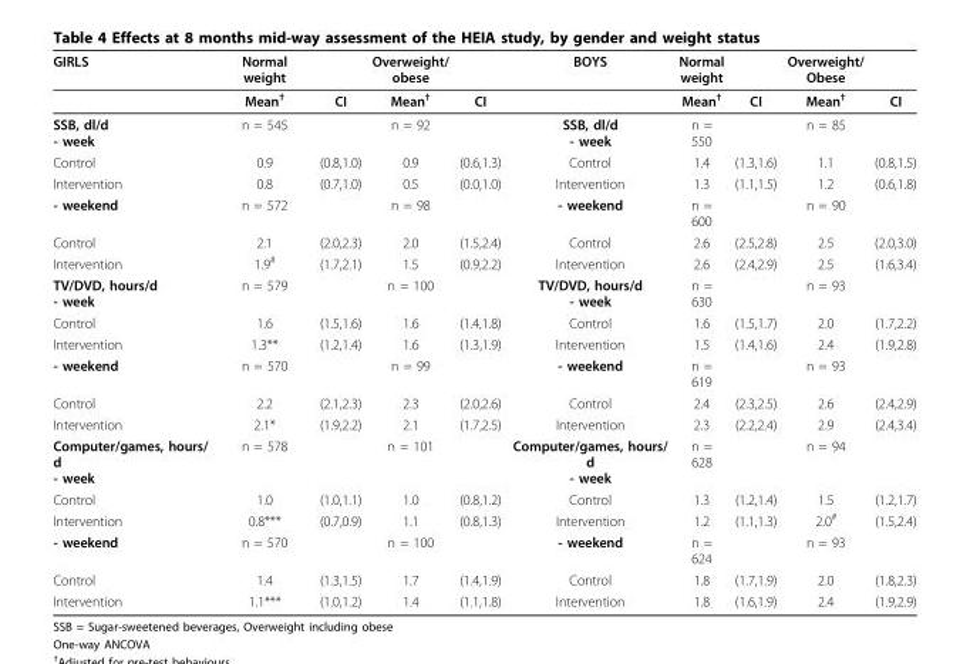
<table><thead><tr><td>GIRLS</td><td>Normal weight</td><td></td><td>Overweight/ obese</td><td></td><td>BOYS</td><td>Normal weight</td><td></td><td>Overweight/ Obese</td><td></td></tr></thead><tbody><tr><td></td><td>Mean<sup>†</sup></td><td>CI</td><td>Mean<sup>†</sup></td><td>CI</td><td></td><td>Mean<sup>†</sup></td><td>CI</td><td>Mean<sup>†</sup></td><td>CI</td></tr><tr><td>SSB, dl/d - week</td><td>n = 545</td><td></td><td>n = 92</td><td></td><td>SSB, dl/d - week</td><td>n = 550</td><td></td><td>n = 85</td><td></td></tr><tr><td>Control</td><td>0.9</td><td>(0.8,1.0)</td><td>0.9</td><td>(0.6,1.3)</td><td>Control</td><td>1.4</td><td>(1.3,1.6)</td><td>1.1</td><td>(0.8,1.5)</td></tr><tr><td>Intervention</td><td>0.8</td><td>(0.7,1.0)</td><td>0.5</td><td>(0.0,1.0)</td><td>Intervention</td><td>1.3</td><td>(1.1,1.5)</td><td>1.2</td><td>(0.6,1.8)</td></tr><tr><td>- weekend</td><td>n = 572</td><td></td><td>n = 98</td><td></td><td>- weekend</td><td>n = 600</td><td></td><td>n = 90</td><td></td></tr><tr><td>Control</td><td>2.1</td><td>(2.0,2.3)</td><td>2.0</td><td>(1.5,2.4)</td><td>Control</td><td>2.6</td><td>(2.5,2.8)</td><td>2.5</td><td>(2.0,3.0)</td></tr><tr><td>Intervention</td><td>1.9<sup>#</sup></td><td>(1.7,2.1)</td><td>1.5</td><td>(0.9,2.2)</td><td>Intervention</td><td>2.6</td><td>(2.4,2.9)</td><td>2.5</td><td>(1.6,3.4)</td></tr><tr><td>TV/DVD, hours/d - week</td><td>n = 579</td><td></td><td>n = 100</td><td></td><td>TV/DVD, hours/d - week</td><td>n = 630</td><td></td><td>n = 93</td><td></td></tr><tr><td>Control</td><td>1.6</td><td>(1.5,1.6)</td><td>1.6</td><td>(1.4,1.8)</td><td>Control</td><td>1.6</td><td>(1.5,1.7)</td><td>2.0</td><td>(1.7,2.2)</td></tr><tr><td>Intervention</td><td>1.3**</td><td>(1.2,1.4)</td><td>1.6</td><td>(1.3,1.9)</td><td>Intervention</td><td>1.5</td><td>(1.4,1.6)</td><td>2.4</td><td>(1.9,2.8)</td></tr><tr><td>- weekend</td><td>n = 570</td><td></td><td>n = 99</td><td></td><td>- weekend</td><td>n = 619</td><td></td><td>n = 93</td><td></td></tr><tr><td>Control</td><td>2.2</td><td>(2.1,2.3)</td><td>2.3</td><td>(2.0,2.6)</td><td>Control</td><td>2.4</td><td>(2.3,2.5)</td><td>2.6</td><td>(2.4,2.9)</td></tr><tr><td>Intervention</td><td>2.1*</td><td>(1.9,2.2)</td><td>2.1</td><td>(1.7,2.5)</td><td>Intervention</td><td>2.3</td><td>(2.2,2.4)</td><td>2.9</td><td>(2.4,3.4)</td></tr><tr><td>Computer/games, hours/ d - week</td><td>n = 578</td><td></td><td>n = 101</td><td></td><td>Computer/games, hours/ d - week</td><td>n = 628</td><td></td><td>n = 94</td><td></td></tr><tr><td>Control</td><td>1.0</td><td>(1.0,1.1)</td><td>1.0</td><td>(0.8,1.2)</td><td>Control</td><td>1.3</td><td>(1.2,1.4)</td><td>1.5</td><td>(1.2,1.7)</td></tr><tr><td>Intervention</td><td>0.8***</td><td>(0.7,0.9)</td><td>1.1</td><td>(0.8,1.3)</td><td>Intervention</td><td>1.2</td><td>(1.1,1.3)</td><td>2.0<sup>#</sup></td><td>(1.5,2.4)</td></tr><tr><td>- weekend</td><td>n = 570</td><td></td><td>n = 100</td><td></td><td>- weekend</td><td>n = 624</td><td></td><td>n = 93</td><td></td></tr><tr><td>Control</td><td>1.4</td><td>(1.3,1.5)</td><td>1.7</td><td>(1.4,1.9)</td><td>Control</td><td>1.8</td><td>(1.7,1.9)</td><td>2.0</td><td>(1.8,2.3)</td></tr><tr><td>Intervention</td><td>1.1***</td><td>(1.0,1.2)</td><td>1.4</td><td>(1.1,1.8)</td><td>Intervention</td><td>1.8</td><td>(1.6,1.9)</td><td>2.4</td><td>(1.9,2.9)</td></tr></tbody></table>